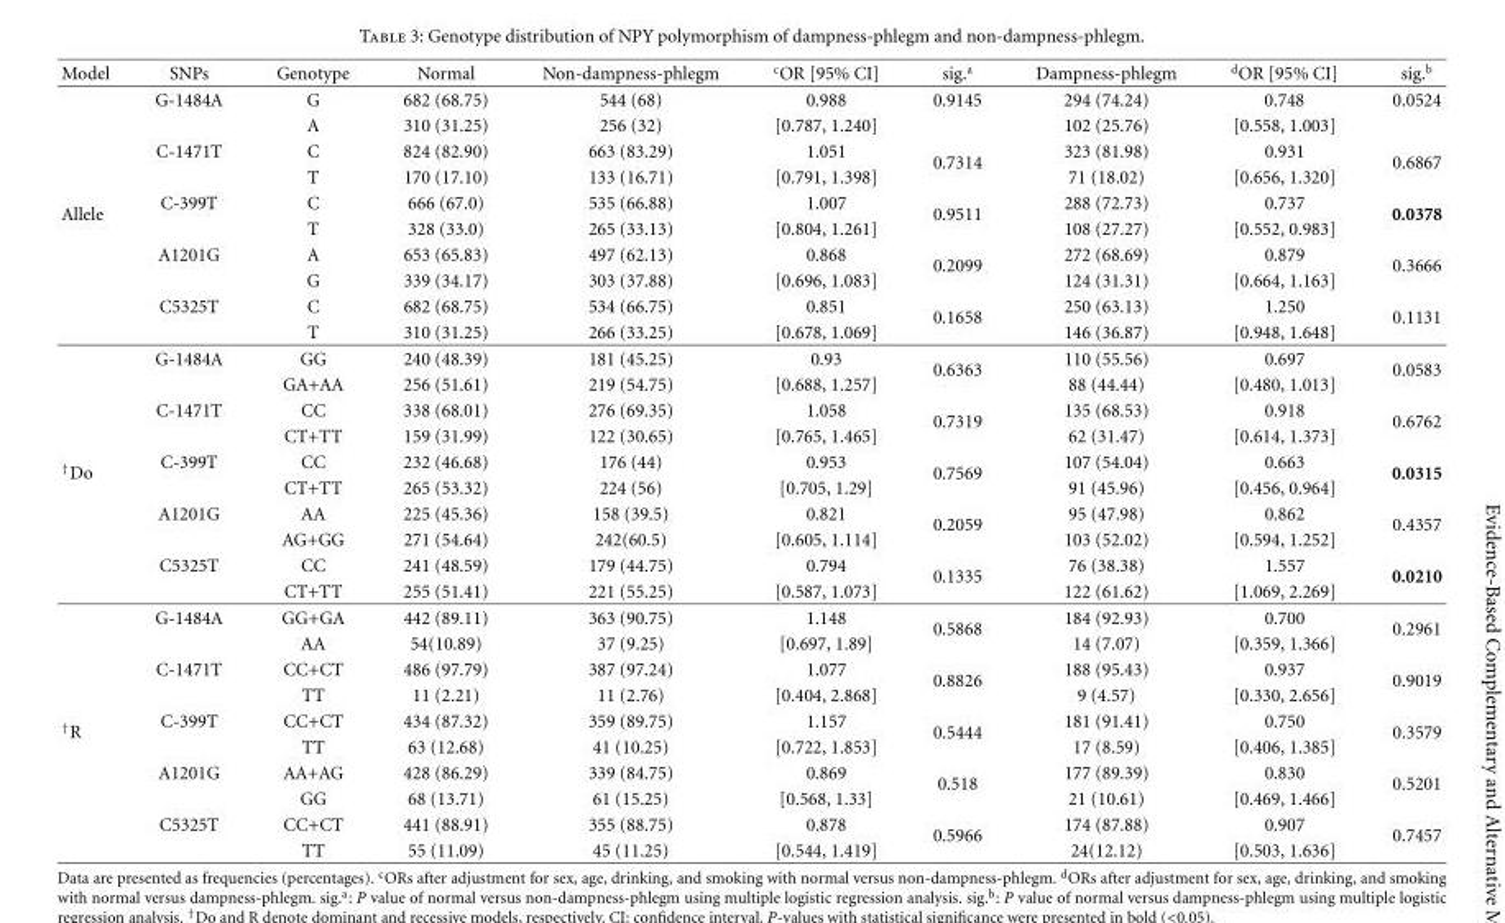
<table><thead><tr><td>Model</td><td>SNPs</td><td>Genotype</td><td>Normal</td><td>Non-dampness-phlegm</td><td><sup>c</sup>OR [95% CI]</td><td>sig.<sup>a</sup></td><td>Dampness-phlegm</td><td><sup>d</sup>OR [95% CI]</td><td>sig.<sup>b</sup></td></tr></thead><tbody><tr><td rowspan="10">Allele</td><td>G-1484A</td><td>G</td><td>682 (68.75)</td><td>544 (68)</td><td>0.988</td><td>0.9145</td><td>294 (74.24)</td><td>0.748</td><td>0.0524</td></tr><tr><td></td><td>A</td><td>310 (31.25)</td><td>256 (32)</td><td>[0.787, 1.240]</td><td></td><td>102 (25.76)</td><td>[0.558, 1.003]</td><td></td></tr><tr><td>C-1471T</td><td>C</td><td>824 (82.90)</td><td>663 (83.29)</td><td>1.051</td><td rowspan="2">0.7314</td><td>323 (81.98)</td><td>0.931</td><td rowspan="2">0.6867</td></tr><tr><td></td><td>T</td><td>170 (17.10)</td><td>133 (16.71)</td><td>[0.791, 1.398]</td><td>71 (18.02)</td><td>[0.656, 1.320]</td></tr><tr><td>C-399T</td><td>C</td><td>666 (67.0)</td><td>535 (66.88)</td><td>1.007</td><td rowspan="2">0.9511</td><td>288 (72.73)</td><td>0.737</td><td rowspan="2">0.0378</td></tr><tr><td></td><td>T</td><td>328 (33.0)</td><td>265 (33.13)</td><td>[0.804, 1.261]</td><td>108 (27.27)</td><td>[0.552, 0.983]</td></tr><tr><td>A1201G</td><td>A</td><td>653 (65.83)</td><td>497 (62.13)</td><td>0.868</td><td rowspan="2">0.2099</td><td>272 (68.69)</td><td>0.879</td><td rowspan="2">0.3666</td></tr><tr><td></td><td>G</td><td>339 (34.17)</td><td>303 (37.88)</td><td>[0.696, 1.083]</td><td>124 (31.31)</td><td>[0.664, 1.163]</td></tr><tr><td>C5325T</td><td>C</td><td>682 (68.75)</td><td>534 (66.75)</td><td>0.851</td><td rowspan="2">0.1658</td><td>250 (63.13)</td><td>1.250</td><td rowspan="2">0.1131</td></tr><tr><td></td><td>T</td><td>310 (31.25)</td><td>266 (33.25)</td><td>[0.678, 1.069]</td><td>146 (36.87)</td><td>[0.948, 1.648]</td></tr><tr><td rowspan="10"><sup>†</sup>Do</td><td>G-1484A</td><td>GG</td><td>240 (48.39)</td><td>181 (45.25)</td><td>0.93</td><td rowspan="2">0.6363</td><td>110 (55.56)</td><td>0.697</td><td rowspan="2">0.0583</td></tr><tr><td></td><td>GA+AA</td><td>256 (51.61)</td><td>219 (54.75)</td><td>[0.688, 1.257]</td><td>88 (44.44)</td><td>[0.480, 1.013]</td></tr><tr><td>C-1471T</td><td>CC</td><td>338 (68.01)</td><td>276 (69.35)</td><td>1.058</td><td rowspan="2">0.7319</td><td>135 (68.53)</td><td>0.918</td><td rowspan="2">0.6762</td></tr><tr><td></td><td>CT+TT</td><td>159 (31.99)</td><td>122 (30.65)</td><td>[0.765, 1.465]</td><td>62 (31.47)</td><td>[0.614, 1.373]</td></tr><tr><td>C-399T</td><td>CC</td><td>232 (46.68)</td><td>176 (44)</td><td>0.953</td><td rowspan="2">0.7569</td><td>107 (54.04)</td><td>0.663</td><td rowspan="2">0.0315</td></tr><tr><td></td><td>CT+TT</td><td>265 (53.32)</td><td>224 (56)</td><td>[0.705, 1.29]</td><td>91 (45.96)</td><td>[0.456, 0.964]</td></tr><tr><td>A1201G</td><td>AA</td><td>225 (45.36)</td><td>158 (39.5)</td><td>0.821</td><td rowspan="2">0.2059</td><td>95 (47.98)</td><td>0.862</td><td rowspan="2">0.4357</td></tr><tr><td></td><td>AG+GG</td><td>271 (54.64)</td><td>242(60.5)</td><td>[0.605, 1.114]</td><td>103 (52.02)</td><td>[0.594, 1.252]</td></tr><tr><td>C5325T</td><td>CC</td><td>241 (48.59)</td><td>179 (44.75)</td><td>0.794</td><td rowspan="2">0.1335</td><td>76 (38.38)</td><td>1.557</td><td rowspan="2">0.0210</td></tr><tr><td></td><td>CT+TT</td><td>255 (51.41)</td><td>221 (55.25)</td><td>[0.587, 1.073]</td><td>122 (61.62)</td><td>[1.069, 2.269]</td></tr><tr><td rowspan="10"><sup>†</sup>R</td><td>G-1484A</td><td>GG+GA</td><td>442 (89.11)</td><td>363 (90.75)</td><td>1.148</td><td rowspan="2">0.5868</td><td>184 (92.93)</td><td>0.700</td><td rowspan="2">0.2961</td></tr><tr><td></td><td>AA</td><td>54(10.89)</td><td>37 (9.25)</td><td>[0.697, 1.89]</td><td>14 (7.07)</td><td>[0.359, 1.366]</td></tr><tr><td>C-1471T</td><td>CC+CT</td><td>486 (97.79)</td><td>387 (97.24)</td><td>1.077</td><td rowspan="2">0.8826</td><td>188 (95.43)</td><td>0.937</td><td rowspan="2">0.9019</td></tr><tr><td></td><td>TT</td><td>11 (2.21)</td><td>11 (2.76)</td><td>[0.404, 2.868]</td><td>9 (4.57)</td><td>[0.330, 2.656]</td></tr><tr><td>C-399T</td><td>CC+CT</td><td>434 (87.32)</td><td>359 (89.75)</td><td>1.157</td><td rowspan="2">0.5444</td><td>181 (91.41)</td><td>0.750</td><td rowspan="2">0.3579</td></tr><tr><td></td><td>TT</td><td>63 (12.68)</td><td>41 (10.25)</td><td>[0.722, 1.853]</td><td>17 (8.59)</td><td>[0.406, 1.385]</td></tr><tr><td>A1201G</td><td>AA+AG</td><td>428 (86.29)</td><td>339 (84.75)</td><td>0.869</td><td rowspan="2">0.518</td><td>177 (89.39)</td><td>0.830</td><td rowspan="2">0.5201</td></tr><tr><td></td><td>GG</td><td>68 (13.71)</td><td>61 (15.25)</td><td>[0.568, 1.33]</td><td>21 (10.61)</td><td>[0.469, 1.466]</td></tr><tr><td>C5325T</td><td>CC+CT</td><td>441 (88.91)</td><td>355 (88.75)</td><td>0.878</td><td rowspan="2">0.5966</td><td>174 (87.88)</td><td>0.907</td><td rowspan="2">0.7457</td></tr><tr><td></td><td>TT</td><td>55 (11.09)</td><td>45 (11.25)</td><td>[0.544, 1.419]</td><td>24(12.12)</td><td>[0.503, 1.636]</td></tr></tbody></table>